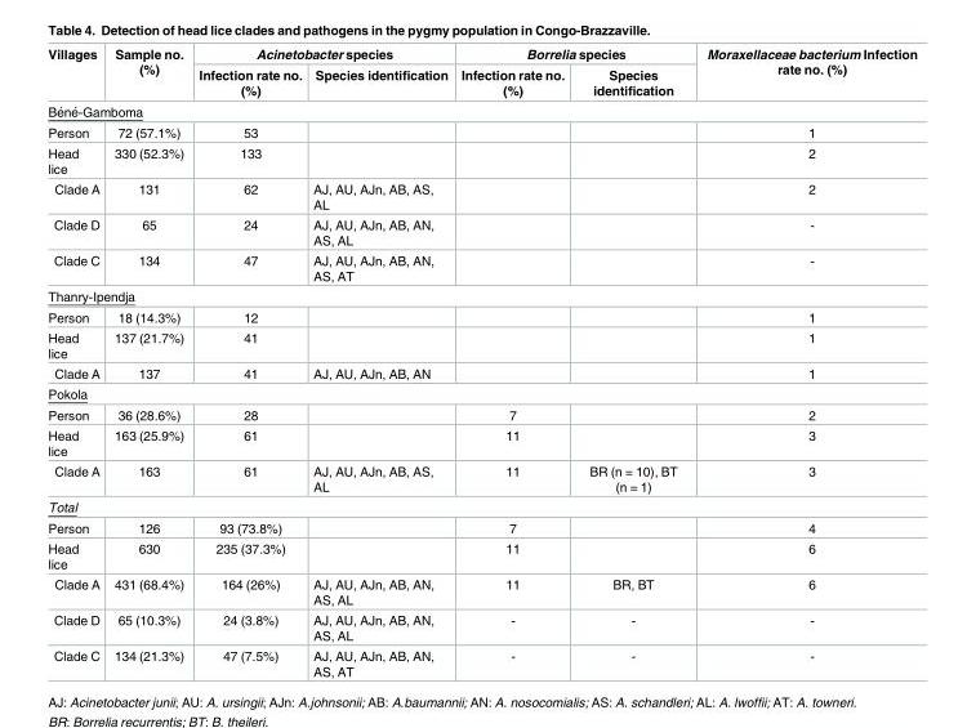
<table><thead><tr><td rowspan="2">Villages</td><td rowspan="2">Sample no. (%)</td><td colspan="2">Acinetobacter species</td><td colspan="2">Borrelia species</td><td rowspan="2">Moraxellaceae bacterium Infection rate no. (%)</td></tr><tr><td>Infection rate no. (%)</td><td>Species identification</td><td>Infection rate no. (%)</td><td>Species identification</td></tr></thead><tbody><tr><td colspan="7">Be´ne´-Gamboma</td></tr><tr><td>Person</td><td>72 (57.1%)</td><td>53</td><td></td><td></td><td></td><td>1</td></tr><tr><td>Head lice</td><td>330 (52.3%)</td><td>133</td><td></td><td></td><td></td><td>2</td></tr><tr><td>Clade A</td><td>131</td><td>62</td><td>AJ, AU, AJn, AB, AS, AL</td><td></td><td></td><td>2</td></tr><tr><td>Clade D</td><td>65</td><td>24</td><td>AJ, AU, AJn, AB, AN, AS, AL</td><td></td><td></td><td>-</td></tr><tr><td>Clade C</td><td>134</td><td>47</td><td>AJ, AU, AJn, AB, AN, AS, AT</td><td></td><td></td><td>-</td></tr><tr><td colspan="7">Thanry-Ipendja</td></tr><tr><td>Person</td><td>18 (14.3%)</td><td>12</td><td></td><td></td><td></td><td>1</td></tr><tr><td>Head lice</td><td>137 (21.7%)</td><td>41</td><td></td><td></td><td></td><td>1</td></tr><tr><td>Clade A</td><td>137</td><td>41</td><td>AJ, AU, AJn, AB, AN</td><td></td><td></td><td>1</td></tr><tr><td colspan="7">Pokola</td></tr><tr><td>Person</td><td>36 (28.6%)</td><td>28</td><td></td><td>7</td><td></td><td>2</td></tr><tr><td>Head lice</td><td>163 (25.9%)</td><td>61</td><td></td><td>11</td><td></td><td>3</td></tr><tr><td>Clade A</td><td>163</td><td>61</td><td>AJ, AU, AJn, AB, AS, AL</td><td>11</td><td>BR (n = 10), BT (n = 1)</td><td>3</td></tr><tr><td colspan="7">Total</td></tr><tr><td>Person</td><td>126</td><td>93 (73.8%)</td><td></td><td>7</td><td></td><td>4</td></tr><tr><td>Head lice</td><td>630</td><td>235 (37.3%)</td><td></td><td>11</td><td></td><td>6</td></tr><tr><td>Clade A</td><td>431 (68.4%)</td><td>164 (26%)</td><td>AJ, AU, AJn, AB, AN, AS, AL</td><td>11</td><td>BR, BT</td><td>6</td></tr><tr><td>Clade D</td><td>65 (10.3%)</td><td>24 (3.8%)</td><td>AJ, AU, AJn, AB, AN, AS, AL</td><td>-</td><td>-</td><td>-</td></tr><tr><td>Clade C</td><td>134 (21.3%)</td><td>47 (7.5%)</td><td>AJ, AU, AJn, AB, AN, AS, AT</td><td>-</td><td>-</td><td>-</td></tr></tbody></table>